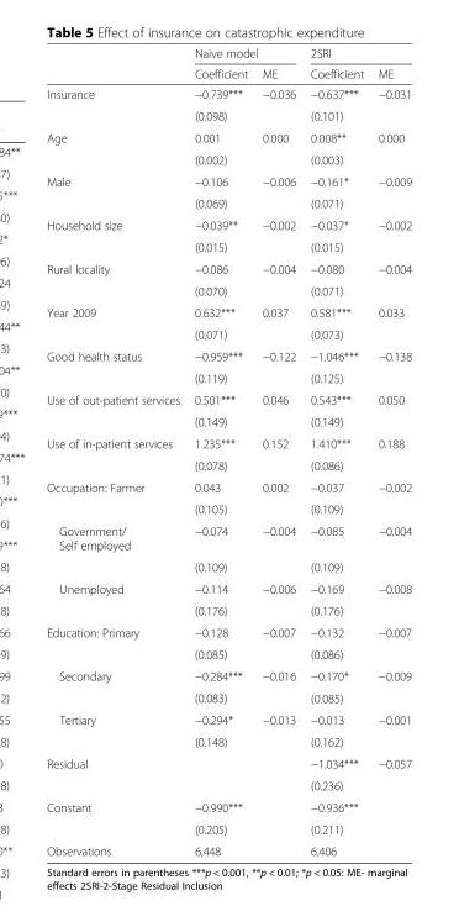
<table><thead><tr><td rowspan="2"></td><td colspan="2">Naive model</td><td colspan="2">2SRI</td></tr><tr><td>Coefficient</td><td>ME</td><td>Coefficient</td><td>ME</td></tr></thead><tbody><tr><td rowspan="2">Insurance</td><td>−0.739***</td><td>−0.036</td><td>−0.637***</td><td>−0.031</td></tr><tr><td>(0.098)</td><td></td><td>(0.101)</td><td></td></tr><tr><td rowspan="2">Age</td><td>0.001</td><td>0.000</td><td>0.008**</td><td>0.000</td></tr><tr><td>(0.002)</td><td></td><td>(0.003)</td><td></td></tr><tr><td rowspan="2">Male</td><td>−0.106</td><td>−0.006</td><td>−0.161*</td><td>−0.009</td></tr><tr><td>(0.069)</td><td></td><td>(0.071)</td><td></td></tr><tr><td rowspan="2">Household size</td><td>−0.039**</td><td>−0.002</td><td>−0.037*</td><td>−0.002</td></tr><tr><td>(0.015)</td><td></td><td>(0.015)</td><td></td></tr><tr><td rowspan="2">Rural locality</td><td>−0.086</td><td>−0.004</td><td>−0.080</td><td>−0.004</td></tr><tr><td>(0.070)</td><td></td><td>(0.071)</td><td></td></tr><tr><td rowspan="2">Year 2009</td><td>0.632***</td><td>0.037</td><td>0.581***</td><td>0.033</td></tr><tr><td>(0.071)</td><td></td><td>(0.073)</td><td></td></tr><tr><td rowspan="2">Good health status</td><td>−0.959***</td><td>−0.122</td><td>−1.046***</td><td>−0.138</td></tr><tr><td>(0.119)</td><td></td><td>(0.125)</td><td></td></tr><tr><td rowspan="2">Use of out-patient services</td><td>0.501***</td><td>0.046</td><td>0.543***</td><td>0.050</td></tr><tr><td>(0.149)</td><td></td><td>(0.149)</td><td></td></tr><tr><td rowspan="2">Use of in-patient services</td><td>1.235***</td><td>0.152</td><td>1.410***</td><td>0.188</td></tr><tr><td>(0.078)</td><td></td><td>(0.086)</td><td></td></tr><tr><td rowspan="2">Occupation: Farmer</td><td>0.043</td><td>0.002</td><td>−0.037</td><td>−0.002</td></tr><tr><td>(0.105)</td><td></td><td>(0.109)</td><td></td></tr><tr><td rowspan="2">Government/ Self employed</td><td>−0.074</td><td>−0.004</td><td>−0.085</td><td>−0.004</td></tr><tr><td>(0.109)</td><td></td><td>(0.109)</td><td></td></tr><tr><td rowspan="2">Unemployed</td><td>−0.114</td><td>−0.006</td><td>−0.169</td><td>−0.008</td></tr><tr><td>(0.176)</td><td></td><td>(0.176)</td><td></td></tr><tr><td rowspan="2">Education: Primary</td><td>−0.128</td><td>−0.007</td><td>−0.132</td><td>−0.007</td></tr><tr><td>(0.085)</td><td></td><td>(0.086)</td><td></td></tr><tr><td rowspan="2">Secondary</td><td>−0.284***</td><td>−0.016</td><td>−0.170*</td><td>−0.009</td></tr><tr><td>(0.083)</td><td></td><td>(0.085)</td><td></td></tr><tr><td rowspan="2">Tertiary</td><td>−0.294*</td><td>−0.013</td><td>−0.013</td><td>−0.001</td></tr><tr><td>(0.148)</td><td></td><td>(0.162)</td><td></td></tr><tr><td rowspan="2">Residual</td><td></td><td></td><td>−1.034***</td><td>−0.057</td></tr><tr><td></td><td></td><td>(0.236)</td><td></td></tr><tr><td rowspan="2">Constant</td><td>−0.990***</td><td></td><td>−0.936***</td><td></td></tr><tr><td>(0.205)</td><td></td><td>(0.211)</td><td></td></tr><tr><td>Observations</td><td>6,448</td><td></td><td>6,406</td><td></td></tr></tbody></table>